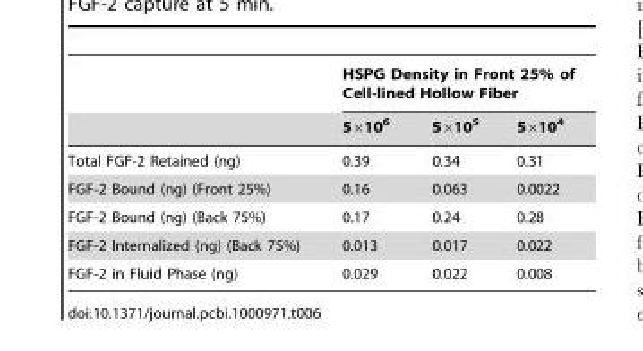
<table><thead><tr><td rowspan="2"></td><td colspan="3">HSPG Density in Front 25% of Cell-lined Hollow Fiber</td></tr><tr><td>5×10<sup>6</sup></td><td>5×10<sup>5</sup></td><td>5×10<sup>4</sup></td></tr></thead><tbody><tr><td>Total FGF-2 Retained (ng)</td><td>0.39</td><td>0.34</td><td>0.31</td></tr><tr><td>FGF-2 Bound (ng) (Front 25%)</td><td>0.16</td><td>0.063</td><td>0.0022</td></tr><tr><td>FGF-2 Bound (ng) (Back 75%)</td><td>0.17</td><td>0.24</td><td>0.28</td></tr><tr><td>FGF-2 Internalized (ng) (Back 75%)</td><td>0.013</td><td>0.017</td><td>0.022</td></tr><tr><td>FGF-2 in Fluid Phase (ng)</td><td>0.029</td><td>0.022</td><td>0.008</td></tr></tbody></table>